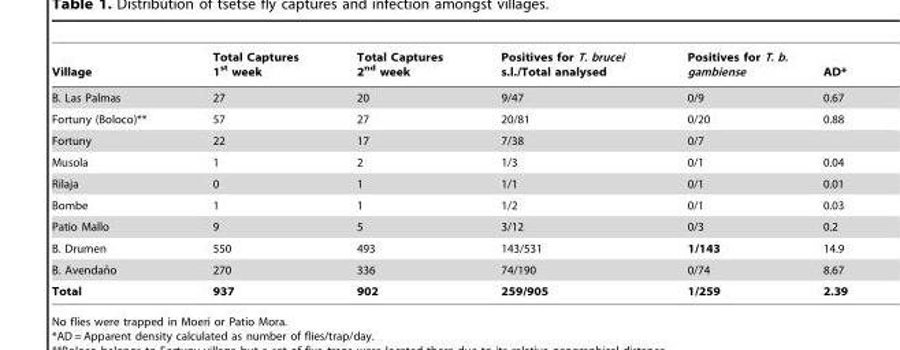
<table><thead><tr><td>Village</td><td>Total Captures 1<sup>st</sup> week</td><td>Total Captures 2<sup>nd</sup> week</td><td>Positives for T. brucei s.l./Total analysed</td><td>Positives for T. b. gambiense</td><td>AD*</td></tr></thead><tbody><tr><td>B. Las Palmas</td><td>27</td><td>20</td><td>9/47</td><td>0/9</td><td>0.67</td></tr><tr><td>Fortuny (Boloco)**</td><td>57</td><td>27</td><td>20/81</td><td>0/20</td><td>0.88</td></tr><tr><td>Fortuny</td><td>22</td><td>17</td><td>7/38</td><td>0/7</td><td></td></tr><tr><td>Musola</td><td>1</td><td>2</td><td>1/3</td><td>0/1</td><td>0.04</td></tr><tr><td>Rilaja</td><td>0</td><td>1</td><td>1/1</td><td>0/1</td><td>0.01</td></tr><tr><td>Bombe</td><td>1</td><td>1</td><td>1/2</td><td>0/1</td><td>0.03</td></tr><tr><td>Patio Mallo</td><td>9</td><td>5</td><td>3/12</td><td>0/3</td><td>0.2</td></tr><tr><td>B. Drumen</td><td>550</td><td>493</td><td>143/531</td><td>1/143</td><td>14.9</td></tr><tr><td>B. Avendan˜o</td><td>270</td><td>336</td><td>74/190</td><td>0/74</td><td>8.67</td></tr><tr><td>Total</td><td>937</td><td>902</td><td>259/905</td><td>1/259</td><td>2.39</td></tr></tbody></table>